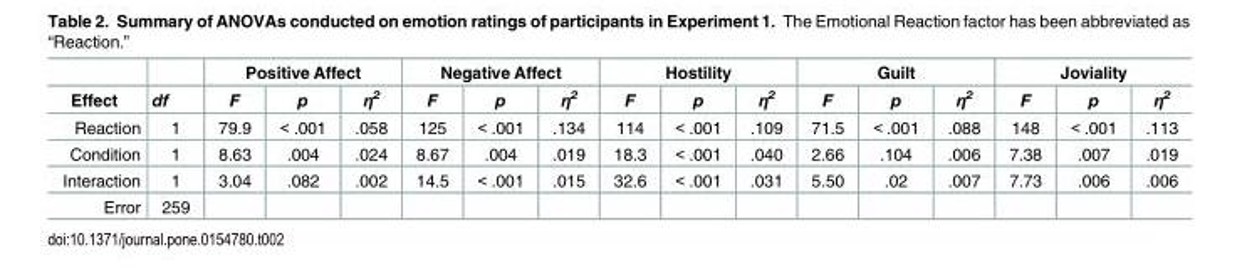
<table><thead><tr><td rowspan="2">Effect</td><td rowspan="2">df</td><td colspan="3">Positive Affect</td><td colspan="3">Negative Affect</td><td colspan="3">Hostility</td><td colspan="3">Guilt</td><td colspan="3">Joviality</td></tr><tr><td>F</td><td>p</td><td>η<sup>2</sup></td><td>F</td><td>p</td><td>η<sup>2</sup></td><td>F</td><td>p</td><td>η<sup>2</sup></td><td>F</td><td>p</td><td>η<sup>2</sup></td><td>F</td><td>p</td><td>η<sup>2</sup></td></tr></thead><tbody><tr><td>Reaction</td><td>1</td><td>79.9</td><td>&lt; .001</td><td>.058</td><td>125</td><td>&lt; .001</td><td>.134</td><td>114</td><td>&lt; .001</td><td>.109</td><td>71.5</td><td>&lt; .001</td><td>.088</td><td>148</td><td>&lt; .001</td><td>.113</td></tr><tr><td>Condition</td><td>1</td><td>8.63</td><td>.004</td><td>.024</td><td>8.67</td><td>.004</td><td>.019</td><td>18.3</td><td>&lt; .001</td><td>.040</td><td>2.66</td><td>.104</td><td>.006</td><td>7.38</td><td>.007</td><td>.019</td></tr><tr><td>Interaction</td><td>1</td><td>3.04</td><td>.082</td><td>.002</td><td>14.5</td><td>&lt; .001</td><td>.015</td><td>32.6</td><td>&lt; .001</td><td>.031</td><td>5.50</td><td>.02</td><td>.007</td><td>7.73</td><td>.006</td><td>.006</td></tr><tr><td>Error</td><td>259</td><td></td><td></td><td></td><td></td><td></td><td></td><td></td><td></td><td></td><td></td><td></td><td></td><td></td><td></td><td></td></tr></tbody></table>